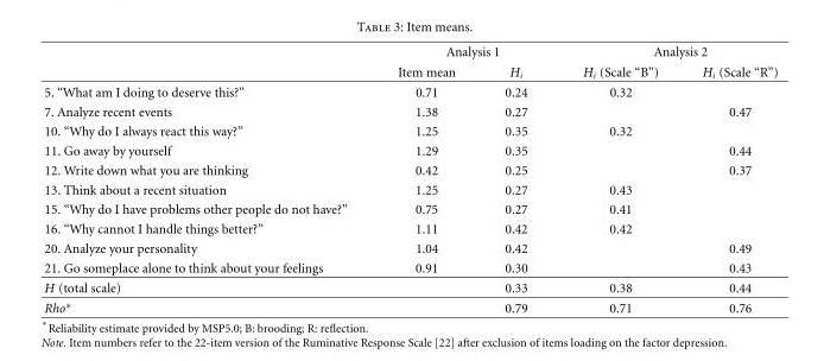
<table><thead><tr><td rowspan="2"></td><td colspan="2">Analysis 1</td><td colspan="2">Analysis 2</td></tr><tr><td>Item mean</td><td>H<sub>i</sub></td><td>H<sub>i</sub> (Scale “B”)</td><td>H<sub>i</sub> (Scale “R”)</td></tr></thead><tbody><tr><td>5. “What am I doing to deserve this?”</td><td>0.71</td><td>0.24</td><td>0.32</td><td></td></tr><tr><td>7. Analyze recent events</td><td>1.38</td><td>0.27</td><td></td><td>0.47</td></tr><tr><td>10. “Why do I always react this way?”</td><td>1.25</td><td>0.35</td><td>0.32</td><td></td></tr><tr><td>11. Go away by yourself</td><td>1.29</td><td>0.35</td><td></td><td>0.44</td></tr><tr><td>12. Write down what you are thinking</td><td>0.42</td><td>0.25</td><td></td><td>0.37</td></tr><tr><td>13. Think about a recent situation</td><td>1.25</td><td>0.27</td><td>0.43</td><td></td></tr><tr><td>15. “Why do I have problems other people do not have?”</td><td>0.75</td><td>0.27</td><td>0.41</td><td></td></tr><tr><td>16. “Why cannot I handle things better?”</td><td>1.11</td><td>0.42</td><td>0.42</td><td></td></tr><tr><td>20. Analyze your personality</td><td>1.04</td><td>0.42</td><td></td><td>0.49</td></tr><tr><td>21. Go someplace alone to think about your feelings</td><td>0.91</td><td>0.30</td><td></td><td>0.43</td></tr><tr><td>H (total scale)</td><td></td><td>0.33</td><td>0.38</td><td>0.44</td></tr><tr><td>Rho∗</td><td></td><td>0.79</td><td>0.71</td><td>0.76</td></tr></tbody></table>